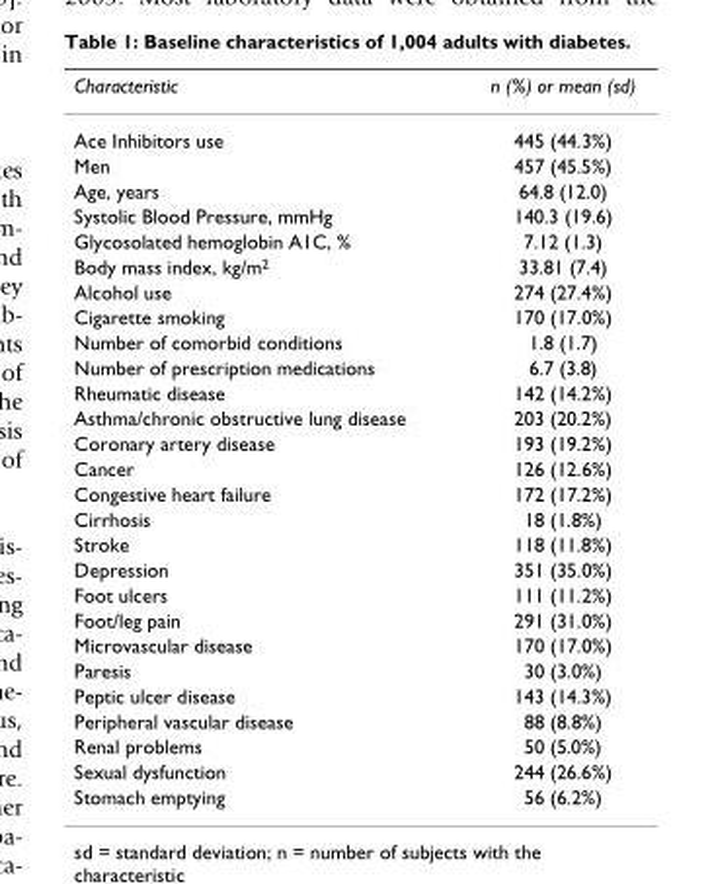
<table><thead><tr><td>Characteristic</td><td>n (%) or mean (sd)</td></tr></thead><tbody><tr><td>Ace Inhibitors use</td><td>445 (44.3%)</td></tr><tr><td>Men</td><td>457 (45.5%)</td></tr><tr><td>Age, years</td><td>64.8 (12.0)</td></tr><tr><td>Systolic Blood Pressure, mmHg</td><td>140.3 (19.6)</td></tr><tr><td>Glycosolated hemoglobin A1C, %</td><td>7.12 (1.3)</td></tr><tr><td>Body mass index, kg/m<sup>2</sup></td><td>33.81 (7.4)</td></tr><tr><td>Alcohol use</td><td>274 (27.4%)</td></tr><tr><td>Cigarette smoking</td><td>170 (17.0%)</td></tr><tr><td>Number of comorbid conditions</td><td>1.8 (1.7)</td></tr><tr><td>Number of prescription medications</td><td>6.7 (3.8)</td></tr><tr><td>Rheumatic disease</td><td>142 (14.2%)</td></tr><tr><td>Asthma/chronic obstructive lung disease</td><td>203 (20.2%)</td></tr><tr><td>Coronary artery disease</td><td>193 (19.2%)</td></tr><tr><td>Cancer</td><td>126 (12.6%)</td></tr><tr><td>Congestive heart failure</td><td>172 (17.2%)</td></tr><tr><td>Cirrhosis</td><td>18 (1.8%)</td></tr><tr><td>Stroke</td><td>118 (11.8%)</td></tr><tr><td>Depression</td><td>351 (35.0%)</td></tr><tr><td>Foot ulcers</td><td>111 (11.2%)</td></tr><tr><td>Foot/leg pain</td><td>291 (31.0%)</td></tr><tr><td>Microvascular disease</td><td>170 (17.0%)</td></tr><tr><td>Paresis</td><td>30 (3.0%)</td></tr><tr><td>Peptic ulcer disease</td><td>143 (14.3%)</td></tr><tr><td>Peripheral vascular disease</td><td>88 (8.8%)</td></tr><tr><td>Renal problems</td><td>50 (5.0%)</td></tr><tr><td>Sexual dysfunction</td><td>244 (26.6%)</td></tr><tr><td>Stomach emptying</td><td>56 (6.2%)</td></tr></tbody></table>